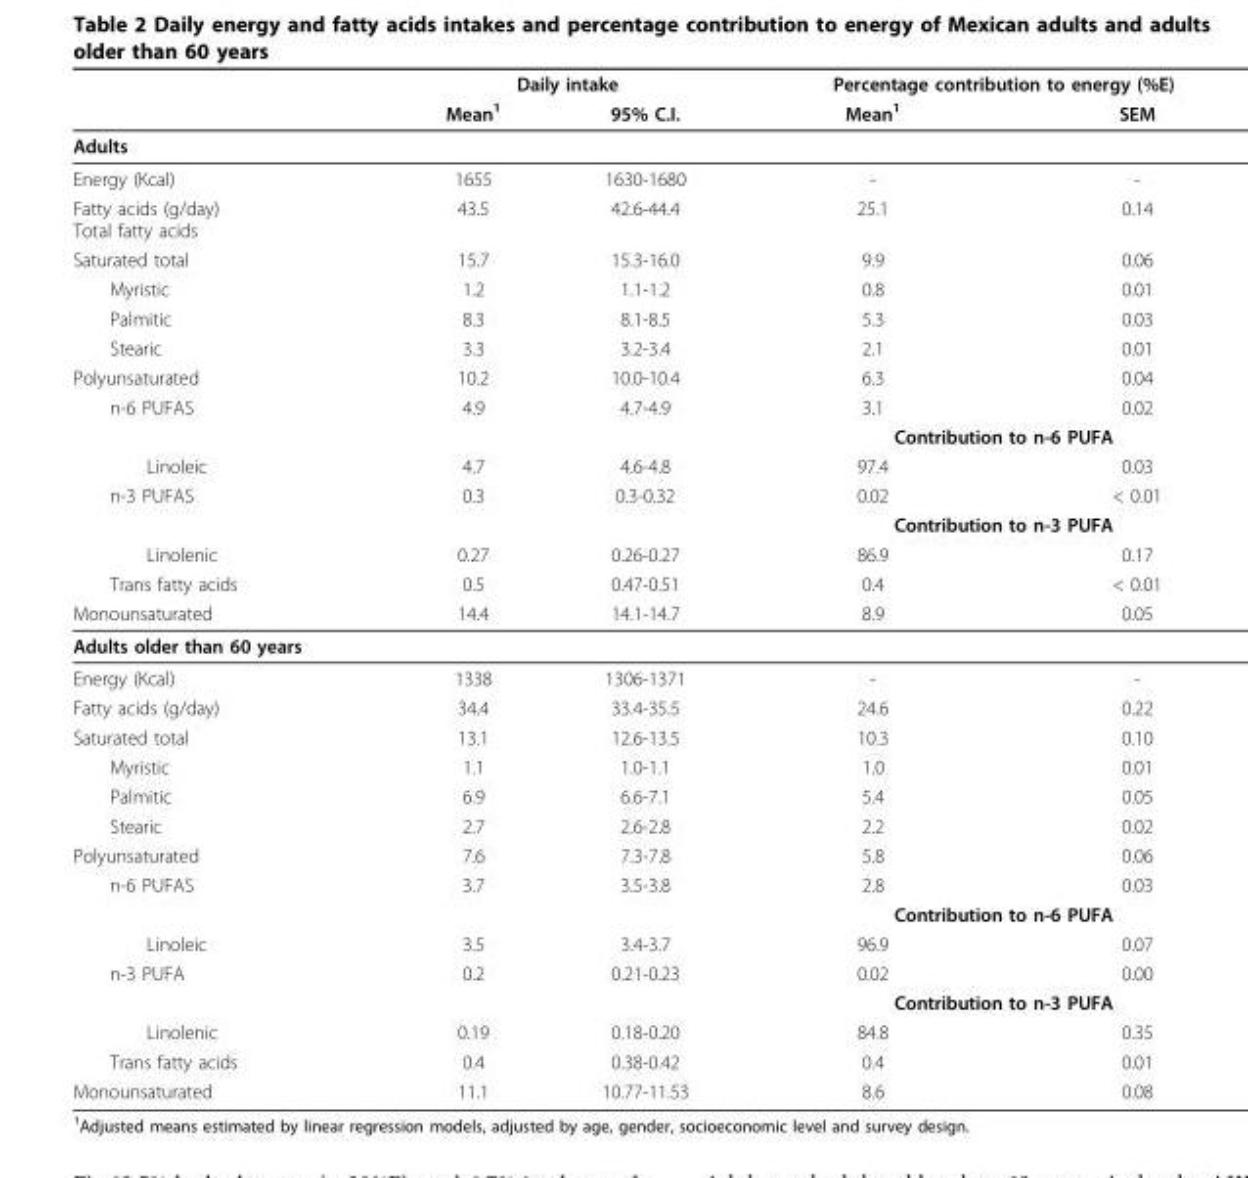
<table><thead><tr><td rowspan="2"></td><td colspan="2">Daily intake</td><td colspan="2">Percentage contribution to energy (%E)</td></tr><tr><td>Mean<sup>1</sup></td><td>95% C.I.</td><td>Mean<sup>1</sup></td><td>SEM</td></tr></thead><tbody><tr><td colspan="5">Adults</td></tr><tr><td>Energy (Kcal)</td><td>1655</td><td>1630-1680</td><td>-</td><td>-</td></tr><tr><td>Fatty acids (g/day) Total fatty acids</td><td>43.5</td><td>42.6-44.4</td><td>25.1</td><td>0.14</td></tr><tr><td>Saturated total</td><td>15.7</td><td>15.3-16.0</td><td>9.9</td><td>0.06</td></tr><tr><td>Myristic</td><td>1.2</td><td>1.1-1.2</td><td>0.8</td><td>0.01</td></tr><tr><td>Palmitic</td><td>8.3</td><td>8.1-8.5</td><td>5.3</td><td>0.03</td></tr><tr><td>Stearic</td><td>3.3</td><td>3.2-3.4</td><td>2.1</td><td>0.01</td></tr><tr><td>Polyunsaturated</td><td>10.2</td><td>10.0-10.4</td><td>6.3</td><td>0.04</td></tr><tr><td rowspan="2">n-6 PUFAS</td><td>4.9</td><td>4.7-4.9</td><td>3.1</td><td>0.02</td></tr><tr><td></td><td></td><td colspan="2">Contribution to n-6 PUFA</td></tr><tr><td>Linoleic</td><td>4.7</td><td>4.6-4.8</td><td>97.4</td><td>0.03</td></tr><tr><td rowspan="2">n-3 PUFAS</td><td>0.3</td><td>0.3-0.32</td><td>0.02</td><td>&lt; 0.01</td></tr><tr><td></td><td></td><td colspan="2">Contribution to n-3 PUFA</td></tr><tr><td>Linolenic</td><td>0.27</td><td>0.26-0.27</td><td>86.9</td><td>0.17</td></tr><tr><td>Trans fatty acids</td><td>0.5</td><td>0.47-0.51</td><td>0.4</td><td>&lt; 0.01</td></tr><tr><td>Monounsaturated</td><td>14.4</td><td>14.1-14.7</td><td>8.9</td><td>0.05</td></tr><tr><td colspan="5">Adults older than 60 years</td></tr><tr><td>Energy (Kcal)</td><td>1338</td><td>1306-1371</td><td>-</td><td>-</td></tr><tr><td>Fatty acids (g/day)</td><td>34.4</td><td>33.4-35.5</td><td>24.6</td><td>0.22</td></tr><tr><td>Saturated total</td><td>13.1</td><td>12.6-13.5</td><td>10.3</td><td>0.10</td></tr><tr><td>Myristic</td><td>1.1</td><td>1.0-1.1</td><td>1.0</td><td>0.01</td></tr><tr><td>Palmitic</td><td>6.9</td><td>6.6-7.1</td><td>5.4</td><td>0.05</td></tr><tr><td>Stearic</td><td>2.7</td><td>2.6-2.8</td><td>2.2</td><td>0.02</td></tr><tr><td>Polyunsaturated</td><td>7.6</td><td>7.3-7.8</td><td>5.8</td><td>0.06</td></tr><tr><td rowspan="2">n-6 PUFAS</td><td>3.7</td><td>3.5-3.8</td><td>2.8</td><td>0.03</td></tr><tr><td></td><td></td><td colspan="2">Contribution to n-6 PUFA</td></tr><tr><td>Linoleic</td><td>3.5</td><td>3.4-3.7</td><td>96.9</td><td>0.07</td></tr><tr><td rowspan="2">n-3 PUFA</td><td>0.2</td><td>0.21-0.23</td><td>0.02</td><td>0.00</td></tr><tr><td></td><td></td><td colspan="2">Contribution to n-3 PUFA</td></tr><tr><td>Linolenic</td><td>0.19</td><td>0.18-0.20</td><td>84.8</td><td>0.35</td></tr><tr><td>Trans fatty acids</td><td>0.4</td><td>0.38-0.42</td><td>0.4</td><td>0.01</td></tr><tr><td>Monounsaturated</td><td>11.1</td><td>10.77-11.53</td><td>8.6</td><td>0.08</td></tr></tbody></table>